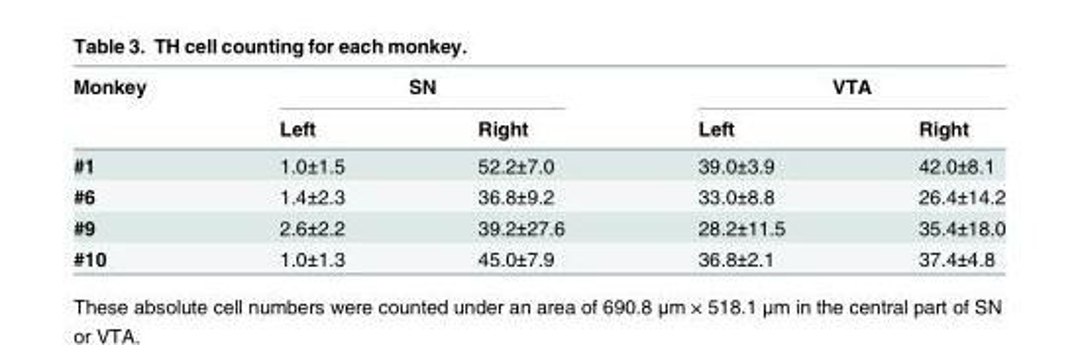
<table><thead><tr><td rowspan="2">Monkey</td><td colspan="2">SN</td><td colspan="2">VTA</td></tr><tr><td>Left</td><td>Right</td><td>Left</td><td>Right</td></tr></thead><tbody><tr><td>#1</td><td>1.0±1.5</td><td>52.2±7.0</td><td>39.0±3.9</td><td>42.0±8.1</td></tr><tr><td>#6</td><td>1.4±2.3</td><td>36.8±9.2</td><td>33.0±8.8</td><td>26.4±14.2</td></tr><tr><td>#9</td><td>2.6±2.2</td><td>39.2±27.6</td><td>28.2±11.5</td><td>35.4±18.0</td></tr><tr><td>#10</td><td>1.0±1.3</td><td>45.0±7.9</td><td>36.8±2.1</td><td>37.4±4.8</td></tr></tbody></table>